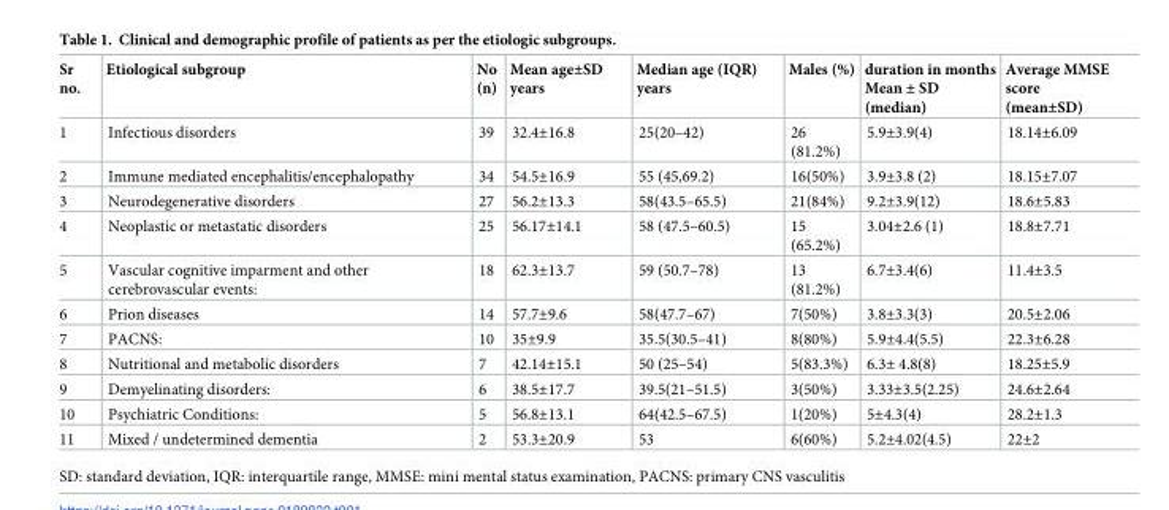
<table><thead><tr><td>Sr no.</td><td>Etiological subgroup</td><td>No (n)</td><td>Mean age±SD years</td><td>Median age (IQR) years</td><td>Males (%)</td><td>duration in months Mean ± SD (median)</td><td>Average MMSE score (mean±SD)</td></tr></thead><tbody><tr><td>1</td><td>Infectious disorders</td><td>39</td><td>32.4±16.8</td><td>25(20–42)</td><td>26 (81.2%)</td><td>5.9±3.9(4)</td><td>18.14±6.09</td></tr><tr><td>2</td><td>Immune mediated encephalitis/encephalopathy</td><td>34</td><td>54.5±16.9</td><td>55 (45,69.2)</td><td>16(50%)</td><td>3.9±3.8 (2)</td><td>18.15±7.07</td></tr><tr><td>3</td><td>Neurodegenerative disorders</td><td>27</td><td>56.2±13.3</td><td>58(43.5–65.5)</td><td>21(84%)</td><td>9.2±3.9(12)</td><td>18.6±5.83</td></tr><tr><td>4</td><td>Neoplastic or metastatic disorders</td><td>25</td><td>56.17±14.1</td><td>58 (47.5–60.5)</td><td>15 (65.2%)</td><td>3.04±2.6 (1)</td><td>18.8±7.71</td></tr><tr><td>5</td><td>Vascular cognitive imparment and other cerebrovascular events:</td><td>18</td><td>62.3±13.7</td><td>59 (50.7–78)</td><td>13 (81.2%)</td><td>6.7±3.4(6)</td><td>11.4±3.5</td></tr><tr><td>6</td><td>Prion diseases</td><td>14</td><td>57.7±9.6</td><td>58(47.7–67)</td><td>7(50%)</td><td>3.8±3.3(3)</td><td>20.5±2.06</td></tr><tr><td>7</td><td>PACNS:</td><td>10</td><td>35±9.9</td><td>35.5(30.5–41)</td><td>8(80%)</td><td>5.9±4.4(5.5)</td><td>22.3±6.28</td></tr><tr><td>8</td><td>Nutritional and metabolic disorders</td><td>7</td><td>42.14±15.1</td><td>50 (25–54)</td><td>5(83.3%)</td><td>6.3± 4.8(8)</td><td>18.25±5.9</td></tr><tr><td>9</td><td>Demyelinating disorders:</td><td>6</td><td>38.5±17.7</td><td>39.5(21–51.5)</td><td>3(50%)</td><td>3.33±3.5(2.25)</td><td>24.6±2.64</td></tr><tr><td>10</td><td>Psychiatric Conditions:</td><td>5</td><td>56.8±13.1</td><td>64(42.5–67.5)</td><td>1(20%)</td><td>5±4.3(4)</td><td>28.2±1.3</td></tr><tr><td>11</td><td>Mixed / undetermined dementia</td><td>2</td><td>53.3±20.9</td><td>53</td><td>6(60%)</td><td>5.2±4.02(4.5)</td><td>22±2</td></tr></tbody></table>